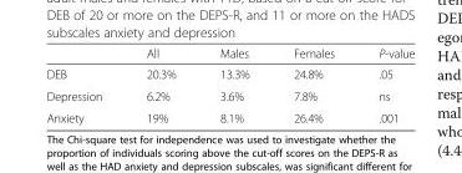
<table><thead><tr><td></td><td>All</td><td>Males</td><td>Females</td><td>P-value</td></tr></thead><tbody><tr><td>DEB</td><td>20.3%</td><td>13.3%</td><td>24.8%</td><td>.05</td></tr><tr><td>Depression</td><td>6.2%</td><td>3.6%</td><td>7.8%</td><td>ns</td></tr><tr><td>Anxiety</td><td>19%</td><td>8.1%</td><td>26.4%</td><td>.001</td></tr></tbody></table>